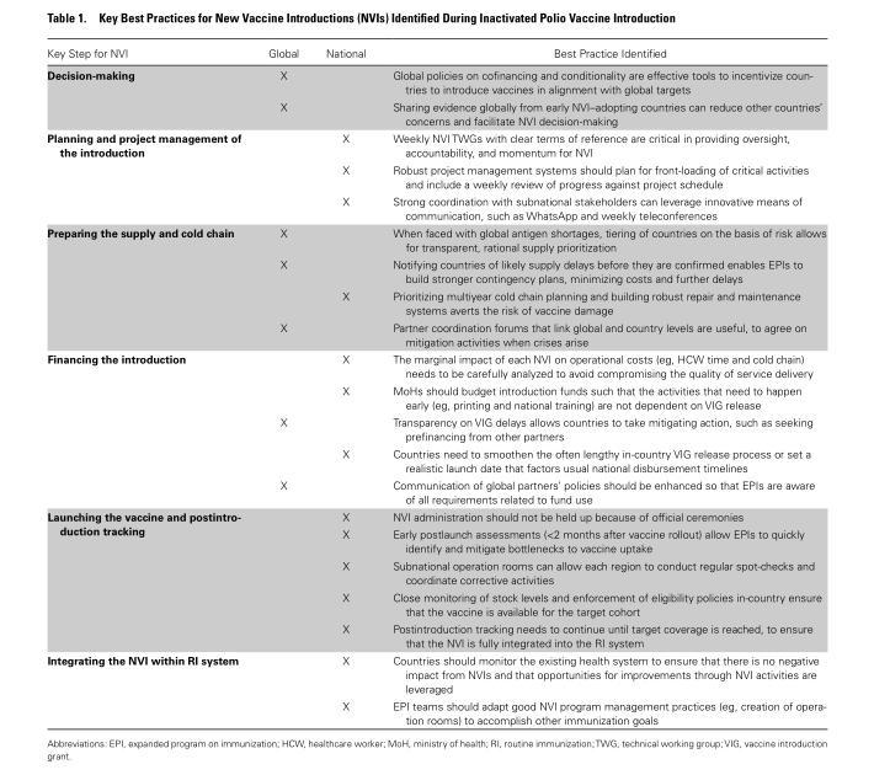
<table><thead><tr><td>Key Step for NVI</td><td>Global</td><td>National</td><td>Best Practice Identified</td></tr></thead><tbody><tr><td rowspan="2">Decision-making</td><td>X</td><td></td><td>Global policies on cofinancing and conditionality are effective tools to incentivize coun- tries to introduce vaccines in alignment with global targets</td></tr><tr><td>X</td><td></td><td>Sharing evidence globally from early NVI–adopting countries can reduce other countries’ concerns and facilitate NVI decision-making</td></tr><tr><td rowspan="3">Planning and project management of the introduction</td><td></td><td>X</td><td>Weekly NVI TWGs with clear terms of reference are critical in providing oversight, accountability, and momentum for NVI</td></tr><tr><td></td><td>X</td><td>Robust project management systems should plan for front-loading of critical activities and include a weekly review of progress against project schedule</td></tr><tr><td></td><td>X</td><td>Strong coordination with subnational stakeholders can leverage innovative means of communication, such as WhatsApp and weekly teleconferences</td></tr><tr><td rowspan="4">Preparing the supply and cold chain</td><td>X</td><td></td><td>When faced with global antigen shortages, tiering of countries on the basis of risk allows for transparent, rational supply prioritization</td></tr><tr><td>X</td><td></td><td>Notifying countries of likely supply delays before they are confirmed enables EPIs to build stronger contingency plans, minimizing costs and further delays</td></tr><tr><td></td><td>X</td><td>Prioritizing multiyear cold chain planning and building robust repair and maintenance systems averts the risk of vaccine damage</td></tr><tr><td>X</td><td></td><td>Partner coordination forums that link global and country levels are useful, to agree on mitigation activities when crises arise</td></tr><tr><td rowspan="5">Financing the introduction</td><td></td><td>X</td><td>The marginal impact of each NVI on operational costs (eg, HCW time and cold chain) needs to be carefully analyzed to avoid compromising the quality of service delivery</td></tr><tr><td></td><td>X</td><td>MoHs should budget introduction funds such that the activities that need to happen early (eg, printing and national training) are not dependent on VIG release</td></tr><tr><td>X</td><td></td><td>Transparency on VIG delays allows countries to take mitigating action, such as seeking prefinancing from other partners</td></tr><tr><td></td><td>X</td><td>Countries need to smoothen the often lengthy in-country VIG release process or set a realistic launch date that factors usual national disbursement timelines</td></tr><tr><td>X</td><td></td><td>Communication of global partners’ policies should be enhanced so that EPIs are aware of all requirements related to fund use</td></tr><tr><td rowspan="5">Launching the vaccine and postintro- duction tracking</td><td></td><td>X</td><td>NVI administration should not be held up because of official ceremonies</td></tr><tr><td></td><td>X</td><td>Early postlaunch assessments (&lt;2 months after vaccine rollout) allow EPIs to quickly identify and mitigate bottlenecks to vaccine uptake</td></tr><tr><td></td><td>X</td><td>Subnational operation rooms can allow each region to conduct regular spot-checks and coordinate corrective activities</td></tr><tr><td></td><td>X</td><td>Close monitoring of stock levels and enforcement of eligibility policies in-country ensure that the vaccine is available for the target cohort</td></tr><tr><td></td><td>X</td><td>Postintroduction tracking needs to continue until target coverage is reached, to ensure that the NVI is fully integrated into the RI system</td></tr><tr><td rowspan="2">Integrating the NVI within RI system</td><td></td><td>X</td><td>Countries should monitor the existing health system to ensure that there is no negative impact from NVIs and that opportunities for improvements through NVI activities are leveraged</td></tr><tr><td></td><td>X</td><td>EPI teams should adapt good NVI program management practices (eg, creation of opera- tion rooms) to accomplish other immunization goals</td></tr></tbody></table>